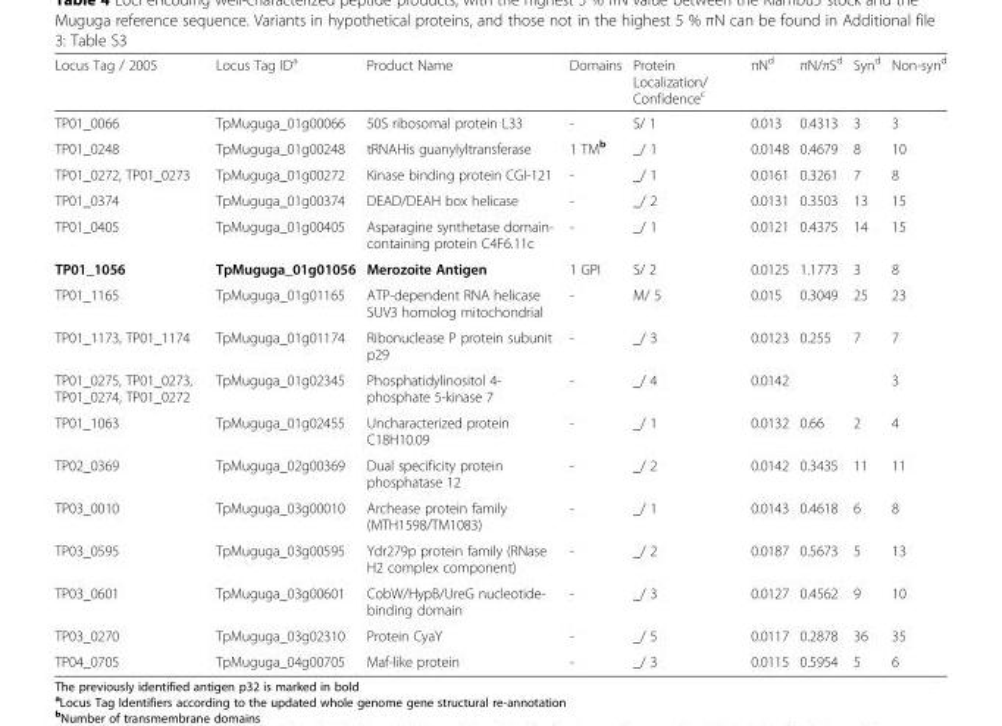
<table><thead><tr><td>Locus Tag / 2005</td><td>Locus Tag ID<sup>a</sup></td><td>Product Name</td><td>Domains</td><td>Protein Localization/ Confidence<sup>c</sup></td><td>πN<sup>d</sup></td><td>πN/πS<sup>d</sup></td><td>Syn<sup>d</sup></td><td>Non-syn<sup>d</sup></td></tr></thead><tbody><tr><td>TP01_0066</td><td>TpMuguga_01g00066</td><td>50S ribosomal protein L33</td><td>-</td><td>S/ 1</td><td>0.013</td><td>0.4313</td><td>3</td><td>3</td></tr><tr><td>TP01_0248</td><td>TpMuguga_01g00248</td><td>tRNAHis guanylyltransferase</td><td>1 TM<sup>b</sup></td><td>_/ 1</td><td>0.0148</td><td>0.4679</td><td>8</td><td>10</td></tr><tr><td>TP01_0272, TP01_0273</td><td>TpMuguga_01g00272</td><td>Kinase binding protein CGI-121</td><td>-</td><td>_/ 1</td><td>0.0161</td><td>0.3261</td><td>7</td><td>8</td></tr><tr><td>TP01_0374</td><td>TpMuguga_01g00374</td><td>DEAD/DEAH box helicase</td><td>-</td><td>_/ 2</td><td>0.0131</td><td>0.3503</td><td>13</td><td>15</td></tr><tr><td>TP01_0405</td><td>TpMuguga_01g00405</td><td>Asparagine synthetase domain- containing protein C4F6.11c</td><td>-</td><td>_/ 1</td><td>0.0121</td><td>0.4375</td><td>14</td><td>15</td></tr><tr><td>TP01_1056</td><td>TpMuguga_01g01056</td><td>Merozoite Antigen</td><td>1 GPI</td><td>S/ 2</td><td>0.0125</td><td>1.1773</td><td>3</td><td>8</td></tr><tr><td>TP01_1165</td><td>TpMuguga_01g01165</td><td>ATP-dependent RNA helicase SUV3 homolog mitochondrial</td><td>-</td><td>M/ 5</td><td>0.015</td><td>0.3049</td><td>25</td><td>23</td></tr><tr><td>TP01_1173, TP01_1174</td><td>TpMuguga_01g01174</td><td>Ribonuclease P protein subunit p29</td><td>-</td><td>_/ 3</td><td>0.0123</td><td>0.255</td><td>7</td><td>7</td></tr><tr><td>TP01_0275, TP01_0273, TP01_0274, TP01_0272</td><td>TpMuguga_01g02345</td><td>Phosphatidylinositol 4- phosphate 5-kinase 7</td><td>-</td><td>_/ 4</td><td>0.0142</td><td></td><td></td><td>3</td></tr><tr><td>TP01_1063</td><td>TpMuguga_01g02455</td><td>Uncharacterized protein C18H10.09</td><td>-</td><td>_/ 1</td><td>0.0132</td><td>0.66</td><td>2</td><td>4</td></tr><tr><td>TP02_0369</td><td>TpMuguga_02g00369</td><td>Dual specificity protein phosphatase 12</td><td>-</td><td>_/ 2</td><td>0.0142</td><td>0.3435</td><td>11</td><td>11</td></tr><tr><td>TP03_0010</td><td>TpMuguga_03g00010</td><td>Archease protein family (MTH1598/TM1083)</td><td>-</td><td>_/ 1</td><td>0.0143</td><td>0.4618</td><td>6</td><td>8</td></tr><tr><td>TP03_0595</td><td>TpMuguga_03g00595</td><td>Ydr279p protein family (RNase H2 complex component)</td><td>-</td><td>_/ 2</td><td>0.0187</td><td>0.5673</td><td>5</td><td>13</td></tr><tr><td>TP03_0601</td><td>TpMuguga_03g00601</td><td>CobW/HypB/UreG nucleotide- binding domain</td><td>-</td><td>_/ 3</td><td>0.0127</td><td>0.4562</td><td>9</td><td>10</td></tr><tr><td>TP03_0270</td><td>TpMuguga_03g02310</td><td>Protein CyaY</td><td>-</td><td>_/ 5</td><td>0.0117</td><td>0.2878</td><td>36</td><td>35</td></tr><tr><td>TP04_0705</td><td>TpMuguga_04g00705</td><td>Maf-like protein</td><td>-</td><td>_/ 3</td><td>0.0115</td><td>0.5954</td><td>5</td><td>6</td></tr></tbody></table>